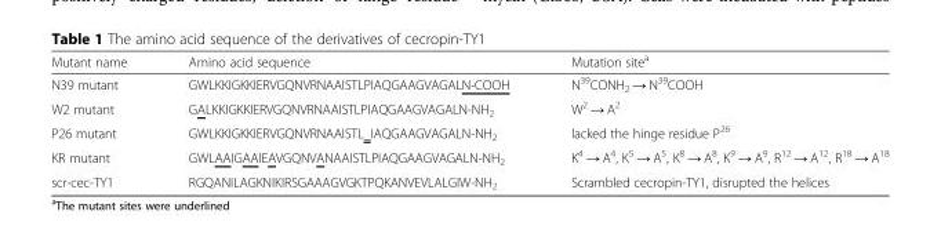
<table><thead><tr><td>Mutant name</td><td>Amino acid sequence</td><td>Mutation site<sup>a</sup></td></tr></thead><tbody><tr><td>N39 mutant</td><td>GWLKKIGKKIERVGQNVRNAAISTLPIAQGAAGVAGALN-COOH</td><td>N<sup>39</sup>CONH<sub>2</sub> → N<sup>39</sup>COOH</td></tr><tr><td>W2 mutant</td><td>GALKKIGKKIERVGQNVRNAAISTLPIAQGAAGVAGALN-NH<sub>2</sub></td><td>W<sup>2</sup> → A<sup>2</sup></td></tr><tr><td>P26 mutant</td><td>GWLKKIGKKIERVGQNVRNAAISTL_IAQGAAGVAGALN-NH<sub>2</sub></td><td>lacked the hinge residue P<sup>26</sup></td></tr><tr><td>KR mutant</td><td>GWLAAIGAAIEAVGQNVANAAISTLPIAQGAAGVAGALN-NH<sub>2</sub></td><td>K<sup>4</sup> → A<sup>4</sup>, K<sup>5</sup> → A<sup>5</sup>, K<sup>8</sup> → A<sup>8</sup>, K<sup>9</sup> → A<sup>9</sup>, R<sup>12</sup> → A<sup>12</sup>, R<sup>18</sup> → A<sup>18</sup></td></tr><tr><td>scr-cec-TY1</td><td>RGQANILAGKNIKIRSGAAAGVGKTPQKANVEVLALGIW-NH<sub>2</sub></td><td>Scrambled cecropin-TY1, disrupted the helices</td></tr></tbody></table>